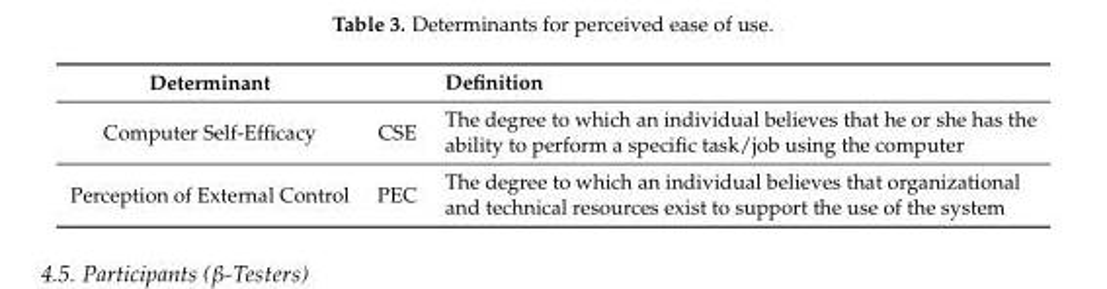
<table><thead><tr><td>Determinant</td><td></td><td>Definition</td></tr></thead><tbody><tr><td>Computer Self-Efficacy</td><td>CSE</td><td>The degree to which an individual believes that he or she has the ability to perform a specific task/job using the computer</td></tr><tr><td>Perception of External Control</td><td>PEC</td><td>The degree to which an individual believes that organizational and technical resources exist to support the use of the system</td></tr></tbody></table>